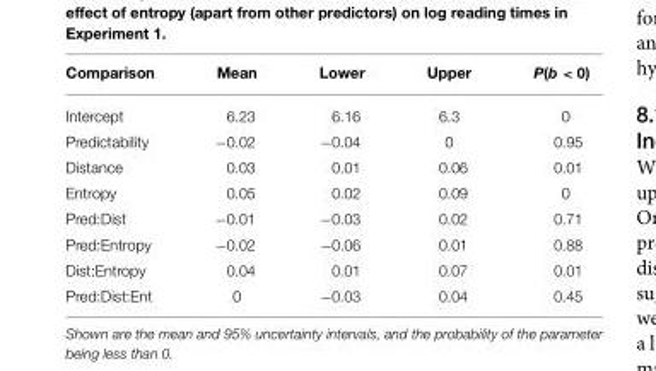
<table><thead><tr><td>Comparison</td><td>Mean</td><td>Lower</td><td>Upper</td><td>P(b &lt; 0)</td></tr></thead><tbody><tr><td>Intercept</td><td>6.23</td><td>6.16</td><td>6.3</td><td>0</td></tr><tr><td>Predictability</td><td>−0.02</td><td>−0.04</td><td>0</td><td>0.95</td></tr><tr><td>Distance</td><td>0.03</td><td>0.01</td><td>0.06</td><td>0.01</td></tr><tr><td>Entropy</td><td>0.05</td><td>0.02</td><td>0.09</td><td>0</td></tr><tr><td>Pred:Dist</td><td>−0.01</td><td>−0.03</td><td>0.02</td><td>0.71</td></tr><tr><td>Pred:Entropy</td><td>−0.02</td><td>−0.06</td><td>0.01</td><td>0.88</td></tr><tr><td>Dist:Entropy</td><td>0.04</td><td>0.01</td><td>0.07</td><td>0.01</td></tr><tr><td>Pred:Dist:Ent</td><td>0</td><td>−0.03</td><td>0.04</td><td>0.45</td></tr></tbody></table>